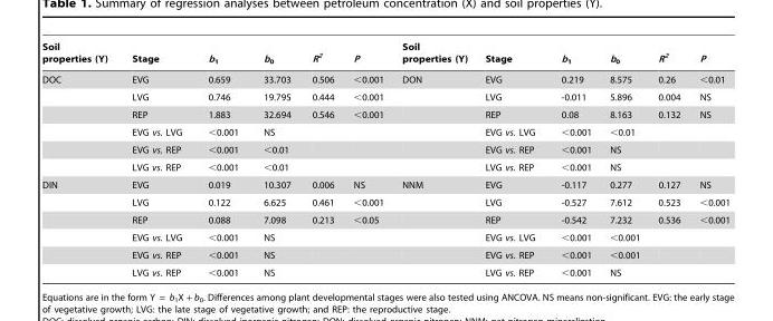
<table><thead><tr><td>Soil properties (Y)</td><td>Stage</td><td>b<sub>1</sub></td><td>b<sub>0</sub></td><td>R<sup>2</sup></td><td>P</td><td>Soil properties (Y)</td><td>Stage</td><td>b<sub>1</sub></td><td>b<sub>0</sub></td><td>R<sup>2</sup></td><td>P</td></tr></thead><tbody><tr><td rowspan="6">DOC</td><td>EVG</td><td>0.659</td><td>33.703</td><td>0.506</td><td>&lt;0.001</td><td>DON</td><td>EVG</td><td>0.219</td><td>8.575</td><td>0.26</td><td>&lt;0.01</td></tr><tr><td>LVG</td><td>0.746</td><td>19.795</td><td>0.444</td><td>&lt;0.001</td><td></td><td>LVG</td><td>-0.011</td><td>5.896</td><td>0.004</td><td>NS</td></tr><tr><td>REP</td><td>1.883</td><td>32.694</td><td>0.546</td><td>&lt;0.001</td><td></td><td>REP</td><td>0.08</td><td>8.163</td><td>0.132</td><td>NS</td></tr><tr><td>EVG vs. LVG</td><td>&lt;0.001</td><td>NS</td><td></td><td></td><td></td><td>EVG vs. LVG</td><td>&lt;0.001</td><td>&lt;0.01</td><td></td><td></td></tr><tr><td>EVG vs. REP</td><td>&lt;0.001</td><td>&lt;0.01</td><td></td><td></td><td></td><td>EVG vs. REP</td><td>&lt;0.001</td><td>NS</td><td></td><td></td></tr><tr><td>LVG vs. REP</td><td>&lt;0.001</td><td>&lt;0.01</td><td></td><td></td><td></td><td>LVG vs. REP</td><td>&lt;0.001</td><td>NS</td><td></td><td></td></tr><tr><td rowspan="6">DIN</td><td>EVG</td><td>0.019</td><td>10.307</td><td>0.006</td><td>NS</td><td>NNM</td><td>EVG</td><td>-0.117</td><td>0.277</td><td>0.127</td><td>NS</td></tr><tr><td>LVG</td><td>0.122</td><td>6.625</td><td>0.461</td><td>&lt;0.001</td><td></td><td>LVG</td><td>-0.527</td><td>7.612</td><td>0.523</td><td>&lt;0.001</td></tr><tr><td>REP</td><td>0.088</td><td>7.098</td><td>0.213</td><td>&lt;0.05</td><td></td><td>REP</td><td>-0.542</td><td>7.232</td><td>0.536</td><td>&lt;0.001</td></tr><tr><td>EVG vs. LVG</td><td>&lt;0.001</td><td>NS</td><td></td><td></td><td></td><td>EVG vs. LVG</td><td>&lt;0.001</td><td>&lt;0.001</td><td></td><td></td></tr><tr><td>EVG vs. REP</td><td>&lt;0.001</td><td>NS</td><td></td><td></td><td></td><td>EVG vs. REP</td><td>&lt;0.001</td><td>&lt;0.001</td><td></td><td></td></tr><tr><td>LVG vs. REP</td><td>&lt;0.001</td><td>NS</td><td></td><td></td><td></td><td>LVG vs. REP</td><td>&lt;0.001</td><td>NS</td><td></td><td></td></tr></tbody></table>